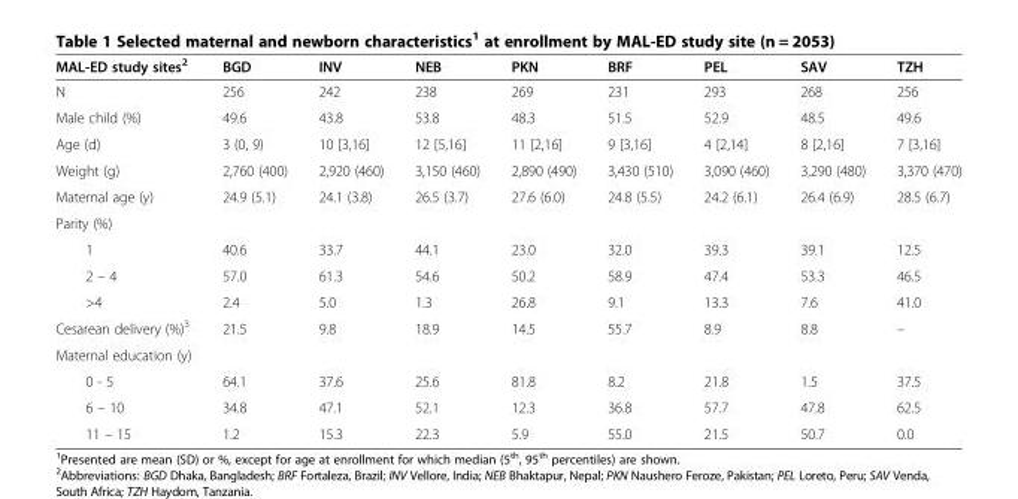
<table><thead><tr><td>MAL-ED study sites<sup>2</sup></td><td>BGD</td><td>INV</td><td>NEB</td><td>PKN</td><td>BRF</td><td>PEL</td><td>SAV</td><td>TZH</td></tr></thead><tbody><tr><td>N</td><td>256</td><td>242</td><td>238</td><td>269</td><td>231</td><td>293</td><td>268</td><td>256</td></tr><tr><td>Male child (%)</td><td>49.6</td><td>43.8</td><td>53.8</td><td>48.3</td><td>51.5</td><td>52.9</td><td>48.5</td><td>49.6</td></tr><tr><td>Age (d)</td><td>3 (0, 9)</td><td>10 [3,16]</td><td>12 [5,16]</td><td>11 [2,16]</td><td>9 [3,16]</td><td>4 [2,14]</td><td>8 [2,16]</td><td>7 [3,16]</td></tr><tr><td>Weight (g)</td><td>2,760 (400)</td><td>2,920 (460)</td><td>3,150 (460)</td><td>2,890 (490)</td><td>3,430 (510)</td><td>3,090 (460)</td><td>3,290 (480)</td><td>3,370 (470)</td></tr><tr><td>Maternal age (y)</td><td>24.9 (5.1)</td><td>24.1 (3.8)</td><td>26.5 (3.7)</td><td>27.6 (6.0)</td><td>24.8 (5.5)</td><td>24.2 (6.1)</td><td>26.4 (6.9)</td><td>28.5 (6.7)</td></tr><tr><td colspan="9">Parity (%)</td></tr><tr><td>1</td><td>40.6</td><td>33.7</td><td>44.1</td><td>23.0</td><td>32.0</td><td>39.3</td><td>39.1</td><td>12.5</td></tr><tr><td>2 – 4</td><td>57.0</td><td>61.3</td><td>54.6</td><td>50.2</td><td>58.9</td><td>47.4</td><td>53.3</td><td>46.5</td></tr><tr><td>&gt;4</td><td>2.4</td><td>5.0</td><td>1.3</td><td>26.8</td><td>9.1</td><td>13.3</td><td>7.6</td><td>41.0</td></tr><tr><td>Cesarean delivery (%)<sup>3</sup></td><td>21.5</td><td>9.8</td><td>18.9</td><td>14.5</td><td>55.7</td><td>8.9</td><td>8.8</td><td>–</td></tr><tr><td colspan="9">Maternal education (y)</td></tr><tr><td>0 - 5</td><td>64.1</td><td>37.6</td><td>25.6</td><td>81.8</td><td>8.2</td><td>21.8</td><td>1.5</td><td>37.5</td></tr><tr><td>6 – 10</td><td>34.8</td><td>47.1</td><td>52.1</td><td>12.3</td><td>36.8</td><td>57.7</td><td>47.8</td><td>62.5</td></tr><tr><td>11 – 15</td><td>1.2</td><td>15.3</td><td>22.3</td><td>5.9</td><td>55.0</td><td>21.5</td><td>50.7</td><td>0.0</td></tr></tbody></table>